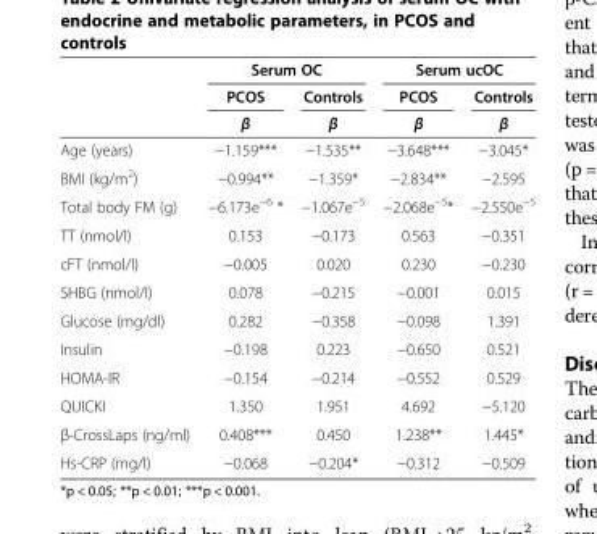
<table><thead><tr><td rowspan="3"></td><td colspan="2">Serum OC</td><td colspan="2">Serum ucOC</td></tr><tr><td rowspan="2">PCOS β</td><td rowspan="2">Controls β</td><td rowspan="2">PCOS β</td><td rowspan="2">Controls β</td></tr><tr></tr></thead><tbody><tr><td>Age (years)</td><td>−1.159***</td><td>−1.535**</td><td>−3.648***</td><td>−3.045*</td></tr><tr><td>BMI (kg/m<sup>2</sup>)</td><td>−0.994**</td><td>−1.359*</td><td>−2.834**</td><td>−2.595</td></tr><tr><td>Total body FM (g)</td><td>−6.173e<sup>−6</sup> *</td><td>−1.067e<sup>−5</sup></td><td>−2.068e<sup>−5</sup>*</td><td>−2.550e<sup>−5</sup></td></tr><tr><td>TT (nmol/l)</td><td>0.153</td><td>−0.173</td><td>0.563</td><td>−0.351</td></tr><tr><td>cFT (nmol/l)</td><td>−0.005</td><td>0.020</td><td>0.230</td><td>−0.230</td></tr><tr><td>SHBG (nmol/l)</td><td>0.078</td><td>−0.215</td><td>−0.001</td><td>0.015</td></tr><tr><td>Glucose (mg/dl)</td><td>0.282</td><td>−0.358</td><td>−0.098</td><td>1.391</td></tr><tr><td>Insulin</td><td>−0.198</td><td>0.223</td><td>−0.650</td><td>0.521</td></tr><tr><td>HOMA-IR</td><td>−0.154</td><td>−0.214</td><td>−0.552</td><td>0.529</td></tr><tr><td>QUICKI</td><td>1.350</td><td>1.951</td><td>4.692</td><td>−5.120</td></tr><tr><td>β-CrossLaps (ng/ml)</td><td>0.408***</td><td>0.450</td><td>1.238**</td><td>1.445*</td></tr><tr><td>Hs-CRP (mg/l)</td><td>−0.068</td><td>−0.204*</td><td>−0.312</td><td>−0.509</td></tr></tbody></table>